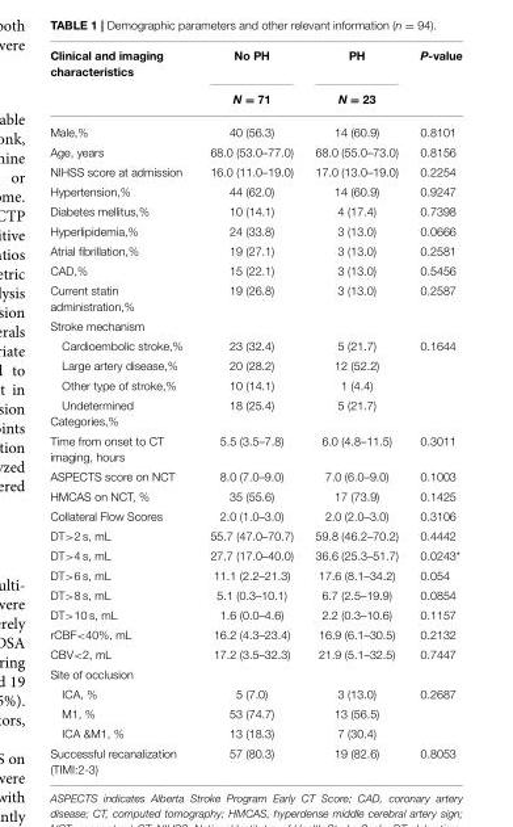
<table><thead><tr><td rowspan="2">Clinical and imaging characteristics</td><td rowspan="2">No PH N = 71</td><td rowspan="2">PH N = 23</td><td rowspan="2">P-value</td></tr><tr></tr></thead><tbody><tr><td>Male,%</td><td>40 (56.3)</td><td>14 (60.9)</td><td>0.8101</td></tr><tr><td>Age, years</td><td>68.0 (53.0–77.0)</td><td>68.0 (55.0–73.0)</td><td>0.8156</td></tr><tr><td>NIHSS score at admission</td><td>16.0 (11.0–19.0)</td><td>17.0 (13.0–19.0)</td><td>0.2254</td></tr><tr><td>Hypertension,%</td><td>44 (62.0)</td><td>14 (60.9)</td><td>0.9247</td></tr><tr><td>Diabetes mellitus,%</td><td>10 (14.1)</td><td>4 (17.4)</td><td>0.7398</td></tr><tr><td>Hyperlipidemia,%</td><td>24 (33.8)</td><td>3 (13.0)</td><td>0.0666</td></tr><tr><td>Atrial fibrillation,%</td><td>19 (27.1)</td><td>3 (13.0)</td><td>0.2581</td></tr><tr><td>CAD,%</td><td>15 (22.1)</td><td>3 (13.0)</td><td>0.5456</td></tr><tr><td>Current statin administration,%</td><td>19 (26.8)</td><td>3 (13.0)</td><td>0.2587</td></tr><tr><td colspan="4">Stroke mechanism</td></tr><tr><td>Cardioembolic stroke,%</td><td>23 (32.4)</td><td>5 (21.7)</td><td>0.1644</td></tr><tr><td>Large artery disease,%</td><td>20 (28.2)</td><td>12 (52.2)</td><td></td></tr><tr><td>Other type of stroke,%</td><td>10 (14.1)</td><td>1 (4.4)</td><td></td></tr><tr><td>Undetermined Categories,%</td><td>18 (25.4)</td><td>5 (21.7)</td><td></td></tr><tr><td>Time from onset to CT imaging, hours</td><td>5.5 (3.5–7.8)</td><td>6.0 (4.8–11.5)</td><td>0.3011</td></tr><tr><td>ASPECTS score on NCT</td><td>8.0 (7.0–9.0)</td><td>7.0 (6.0–9.0)</td><td>0.1003</td></tr><tr><td>HMCAS on NCT, %</td><td>35 (55.6)</td><td>17 (73.9)</td><td>0.1425</td></tr><tr><td>Collateral Flow Scores</td><td>2.0 (1.0–3.0)</td><td>2.0 (2.0–3.0)</td><td>0.3106</td></tr><tr><td>DT&gt;2 s, mL</td><td>55.7 (47.0–70.7)</td><td>59.8 (46.2–70.2)</td><td>0.4442</td></tr><tr><td>DT&gt;4 s, mL</td><td>27.7 (17.0–40.0)</td><td>36.6 (25.3–51.7)</td><td>0.0243*</td></tr><tr><td>DT&gt;6 s, mL</td><td>11.1 (2.2–21.3)</td><td>17.6 (8.1–34.2)</td><td>0.054</td></tr><tr><td>DT&gt;8 s, mL</td><td>5.1 (0.3–10.1)</td><td>6.7 (2.5–19.9)</td><td>0.0854</td></tr><tr><td>DT&gt;10 s, mL</td><td>1.6 (0.0–4.6)</td><td>2.2 (0.3–10.6)</td><td>0.1157</td></tr><tr><td>rCBF&lt;40%, mL</td><td>16.2 (4.3–23.4)</td><td>16.9 (6.1–30.5)</td><td>0.2132</td></tr><tr><td>CBV&lt;2, mL</td><td>17.2 (3.5–32.3)</td><td>21.9 (5.1–32.5)</td><td>0.7447</td></tr><tr><td colspan="4">Site of occlusion</td></tr><tr><td>ICA, %</td><td>5 (7.0)</td><td>3 (13.0)</td><td>0.2687</td></tr><tr><td>M1, %</td><td>53 (74.7)</td><td>13 (56.5)</td><td></td></tr><tr><td>ICA &amp;M1, %</td><td>13 (18.3)</td><td>7 (30.4)</td><td></td></tr><tr><td>Successful recanalization (TIMI:2-3)</td><td>57 (80.3)</td><td>19 (82.6)</td><td>0.8053</td></tr></tbody></table>